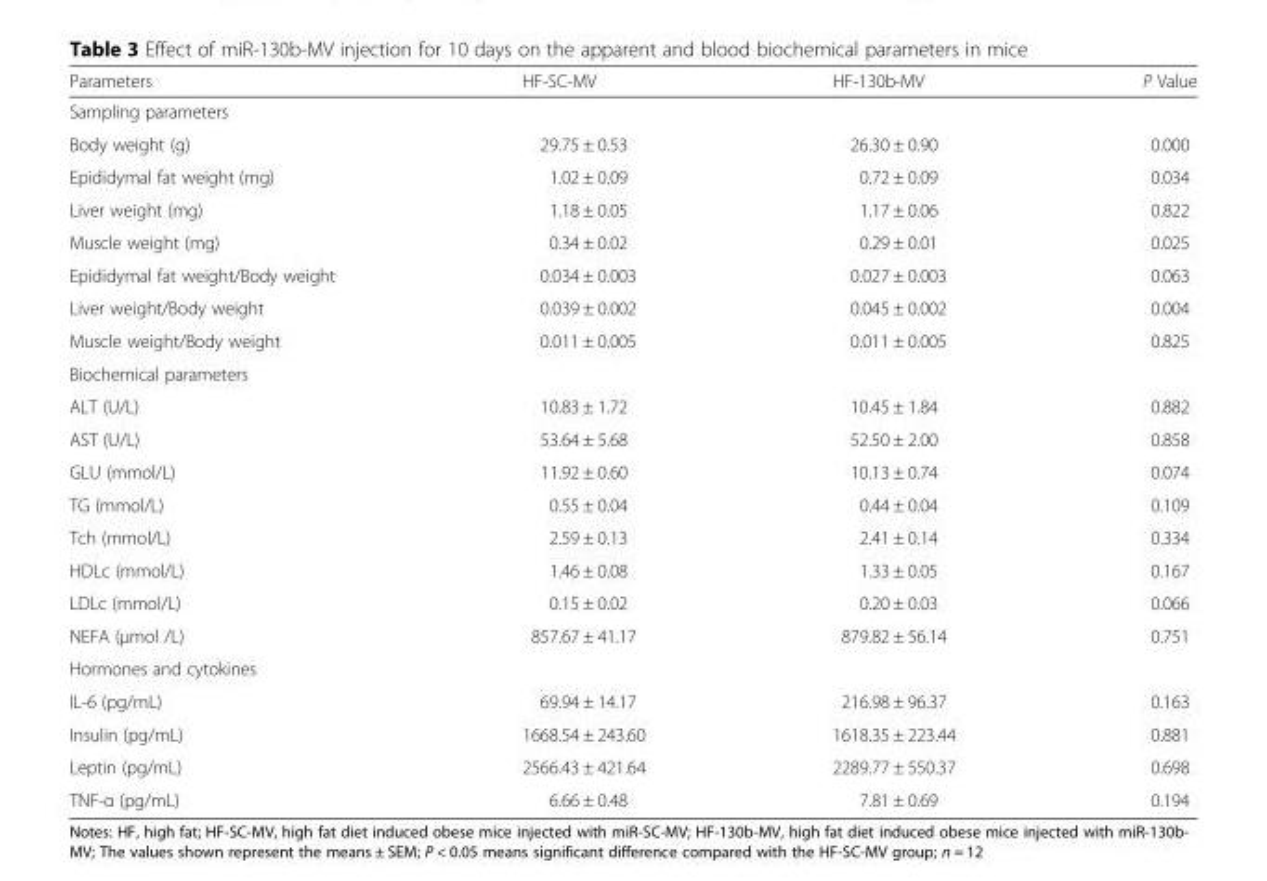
<table><thead><tr><td>Parameters</td><td>HF-SC-MV</td><td>HF-130b-MV</td><td>P Value</td></tr></thead><tbody><tr><td colspan="4">Sampling parameters</td></tr><tr><td>Body weight (g)</td><td>29.75 ± 0.53</td><td>26.30 ± 0.90</td><td>0.000</td></tr><tr><td>Epididymal fat weight (mg)</td><td>1.02 ± 0.09</td><td>0.72 ± 0.09</td><td>0.034</td></tr><tr><td>Liver weight (mg)</td><td>1.18 ± 0.05</td><td>1.17 ± 0.06</td><td>0.822</td></tr><tr><td>Muscle weight (mg)</td><td>0.34 ± 0.02</td><td>0.29 ± 0.01</td><td>0.025</td></tr><tr><td>Epididymal fat weight/Body weight</td><td>0.034 ± 0.003</td><td>0.027 ± 0.003</td><td>0.063</td></tr><tr><td>Liver weight/Body weight</td><td>0.039 ± 0.002</td><td>0.045 ± 0.002</td><td>0.004</td></tr><tr><td>Muscle weight/Body weight</td><td>0.011 ± 0.005</td><td>0.011 ± 0.005</td><td>0.825</td></tr><tr><td colspan="4">Biochemical parameters</td></tr><tr><td>ALT (U/L)</td><td>10.83 ± 1.72</td><td>10.45 ± 1.84</td><td>0.882</td></tr><tr><td>AST (U/L)</td><td>53.64 ± 5.68</td><td>52.50 ± 2.00</td><td>0.858</td></tr><tr><td>GLU (mmol/L)</td><td>11.92 ± 0.60</td><td>10.13 ± 0.74</td><td>0.074</td></tr><tr><td>TG (mmol/L)</td><td>0.55 ± 0.04</td><td>0.44 ± 0.04</td><td>0.109</td></tr><tr><td>Tch (mmol/L)</td><td>2.59 ± 0.13</td><td>2.41 ± 0.14</td><td>0.334</td></tr><tr><td>HDLc (mmol/L)</td><td>1.46 ± 0.08</td><td>1.33 ± 0.05</td><td>0.167</td></tr><tr><td>LDLc (mmol/L)</td><td>0.15 ± 0.02</td><td>0.20 ± 0.03</td><td>0.066</td></tr><tr><td>NEFA (μmol /L)</td><td>857.67 ± 41.17</td><td>879.82 ± 56.14</td><td>0.751</td></tr><tr><td colspan="4">Hormones and cytokines</td></tr><tr><td>IL-6 (pg/mL)</td><td>69.94 ± 14.17</td><td>216.98 ± 96.37</td><td>0.163</td></tr><tr><td>Insulin (pg/mL)</td><td>1668.54 ± 243.60</td><td>1618.35 ± 223.44</td><td>0.881</td></tr><tr><td>Leptin (pg/mL)</td><td>2566.43 ± 421.64</td><td>2289.77 ± 550.37</td><td>0.698</td></tr><tr><td>TNF-α (pg/mL)</td><td>6.66 ± 0.48</td><td>7.81 ± 0.69</td><td>0.194</td></tr></tbody></table>